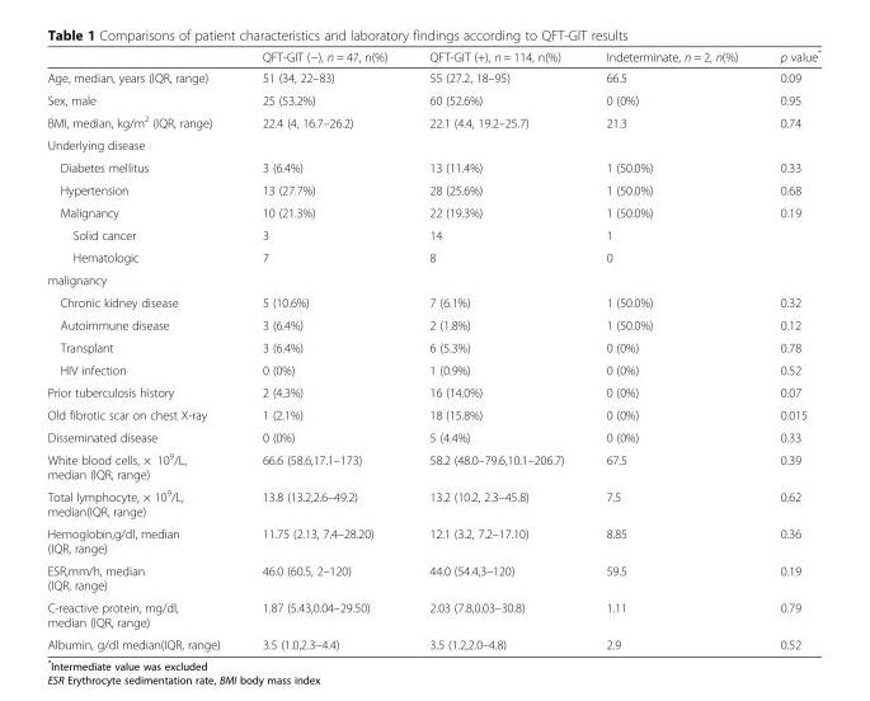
<table><thead><tr><td></td><td>QFT-GIT (−), n = 47, n(%)</td><td>QFT-GIT (+), n = 114, n(%)</td><td>Indeterminate, n = 2, n(%)</td><td>p value*</td></tr></thead><tbody><tr><td>Age, median, years (IQR, range)</td><td>51 (34, 22–83)</td><td>55 (27.2, 18–95)</td><td>66.5</td><td>0.09</td></tr><tr><td>Sex, male</td><td>25 (53.2%)</td><td>60 (52.6%)</td><td>0 (0%)</td><td>0.95</td></tr><tr><td>BMI, median, kg/m<sup>2</sup> (IQR, range)</td><td>22.4 (4, 16.7–26.2)</td><td>22.1 (4.4, 19.2–25.7)</td><td>21.3</td><td>0.74</td></tr><tr><td colspan="5">Underlying disease</td></tr><tr><td>Diabetes mellitus</td><td>3 (6.4%)</td><td>13 (11.4%)</td><td>1 (50.0%)</td><td>0.33</td></tr><tr><td>Hypertension</td><td>13 (27.7%)</td><td>28 (25.6%)</td><td>1 (50.0%)</td><td>0.68</td></tr><tr><td>Malignancy</td><td>10 (21.3%)</td><td>22 (19.3%)</td><td>1 (50.0%)</td><td>0.19</td></tr><tr><td>Solid cancer</td><td>3</td><td>14</td><td>1</td><td></td></tr><tr><td>Hematologic</td><td>7</td><td>8</td><td>0</td><td></td></tr><tr><td colspan="5">malignancy</td></tr><tr><td>Chronic kidney disease</td><td>5 (10.6%)</td><td>7 (6.1%)</td><td>1 (50.0%)</td><td>0.32</td></tr><tr><td>Autoimmune disease</td><td>3 (6.4%)</td><td>2 (1.8%)</td><td>1 (50.0%)</td><td>0.12</td></tr><tr><td>Transplant</td><td>3 (6.4%)</td><td>6 (5.3%)</td><td>0 (0%)</td><td>0.78</td></tr><tr><td>HIV infection</td><td>0 (0%)</td><td>1 (0.9%)</td><td>0 (0%)</td><td>0.52</td></tr><tr><td>Prior tuberculosis history</td><td>2 (4.3%)</td><td>16 (14.0%)</td><td>0 (0%)</td><td>0.07</td></tr><tr><td>Old fibrotic scar on chest X-ray</td><td>1 (2.1%)</td><td>18 (15.8%)</td><td>0 (0%)</td><td>0.015</td></tr><tr><td>Disseminated disease</td><td>0 (0%)</td><td>5 (4.4%)</td><td>0 (0%)</td><td>0.33</td></tr><tr><td>White blood cells, × 10<sup>9</sup>/L, median (IQR, range)</td><td>66.6 (58.6,17.1–173)</td><td>58.2 (48.0–79.6,10.1–206.7)</td><td>67.5</td><td>0.39</td></tr><tr><td>Total lymphocyte, × 10<sup>9</sup>/L, median(IQR, range)</td><td>13.8 (13.2,2.6–49.2)</td><td>13.2 (10.2, 2.3–45.8)</td><td>7.5</td><td>0.62</td></tr><tr><td>Hemoglobin,g/dl, median (IQR, range)</td><td>11.75 (2.13, 7.4–28.20)</td><td>12.1 (3.2, 7.2–17.10)</td><td>8.85</td><td>0.36</td></tr><tr><td>ESR,mm/h, median (IQR, range)</td><td>46.0 (60.5, 2–120)</td><td>44.0 (54.4,3–120)</td><td>59.5</td><td>0.19</td></tr><tr><td>C-reactive protein, mg/dl, median (IQR, range)</td><td>1.87 (5.43,0.04–29.50)</td><td>2.03 (7.8,0.03–30.8)</td><td>1.11</td><td>0.79</td></tr><tr><td>Albumin, g/dl median(IQR, range)</td><td>3.5 (1.0,2.3–4.4)</td><td>3.5 (1.2,2.0–4.8)</td><td>2.9</td><td>0.52</td></tr></tbody></table>